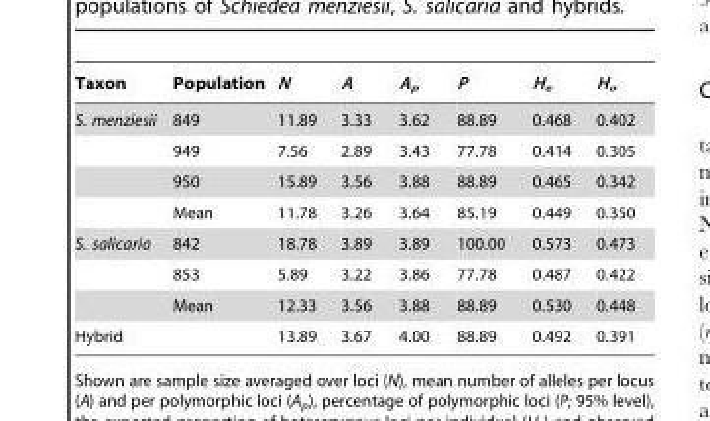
<table><thead><tr><td>Taxon</td><td>Population</td><td>N</td><td>A</td><td>A<sub>p</sub></td><td>P</td><td>H<sub>e</sub></td><td>H<sub>o</sub></td></tr></thead><tbody><tr><td rowspan="4">S. menziesii</td><td>849</td><td>11.89</td><td>3.33</td><td>3.62</td><td>88.89</td><td>0.468</td><td>0.402</td></tr><tr><td>949</td><td>7.56</td><td>2.89</td><td>3.43</td><td>77.78</td><td>0.414</td><td>0.305</td></tr><tr><td>950</td><td>15.89</td><td>3.56</td><td>3.88</td><td>88.89</td><td>0.465</td><td>0.342</td></tr><tr><td>Mean</td><td>11.78</td><td>3.26</td><td>3.64</td><td>85.19</td><td>0.449</td><td>0.350</td></tr><tr><td rowspan="3">S. salicaria</td><td>842</td><td>18.78</td><td>3.89</td><td>3.89</td><td>100.00</td><td>0.573</td><td>0.473</td></tr><tr><td>853</td><td>5.89</td><td>3.22</td><td>3.86</td><td>77.78</td><td>0.487</td><td>0.422</td></tr><tr><td>Mean</td><td>12.33</td><td>3.56</td><td>3.88</td><td>88.89</td><td>0.530</td><td>0.448</td></tr><tr><td>Hybrid</td><td></td><td>13.89</td><td>3.67</td><td>4.00</td><td>88.89</td><td>0.492</td><td>0.391</td></tr></tbody></table>